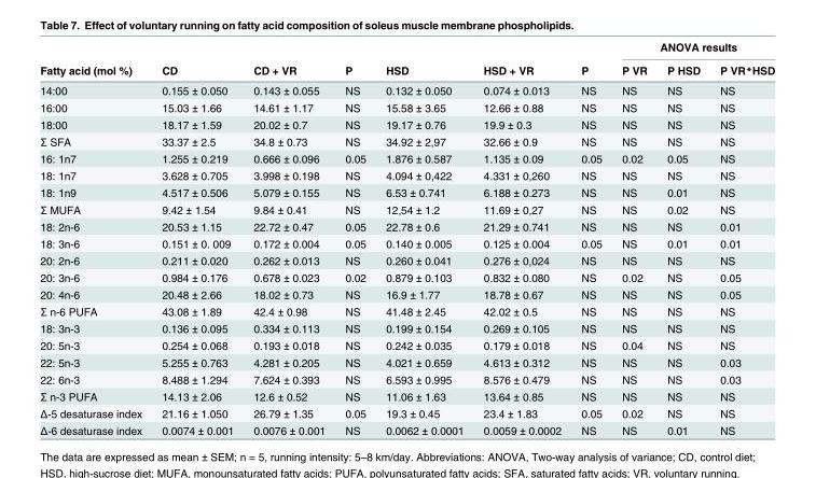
<table><thead><tr><td rowspan="2">Fatty acid (mol %)</td><td rowspan="2">CD</td><td rowspan="2">CD + VR</td><td rowspan="2">P</td><td rowspan="2">HSD</td><td rowspan="2">HSD + VR</td><td rowspan="2">P</td><td colspan="3">ANOVA results</td></tr><tr><td>P VR</td><td>P HSD</td><td>P VR*HSD</td></tr></thead><tbody><tr><td>14:00</td><td>0.155 ± 0.050</td><td>0.143 ± 0.055</td><td>NS</td><td>0.132 ± 0.050</td><td>0.074 ± 0.013</td><td>NS</td><td>NS</td><td>NS</td><td>NS</td></tr><tr><td>16:00</td><td>15.03 ± 1.66</td><td>14.61 ± 1.17</td><td>NS</td><td>15.58 ± 3.65</td><td>12.66 ± 0.88</td><td>NS</td><td>NS</td><td>NS</td><td>NS</td></tr><tr><td>18:00</td><td>18.17 ± 1.59</td><td>20.02 ± 0.7</td><td>NS</td><td>19.17 ± 0.76</td><td>19.9 ± 0.3</td><td>NS</td><td>NS</td><td>NS</td><td>NS</td></tr><tr><td>Σ SFA</td><td>33.37 ± 2.5</td><td>34.8 ± 0.73</td><td>NS</td><td>34.92 ± 2,97</td><td>32.66 ± 0.9</td><td>NS</td><td>NS</td><td>NS</td><td>NS</td></tr><tr><td>16: 1n7</td><td>1.255 ± 0.219</td><td>0.666 ± 0.096</td><td>0.05</td><td>1.876 ± 0.587</td><td>1.135 ± 0.09</td><td>0.05</td><td>0.02</td><td>0.05</td><td>NS</td></tr><tr><td>18: 1n7</td><td>3.628 ± 0.705</td><td>3.998 ± 0.198</td><td>NS</td><td>4.094 ± 0,422</td><td>4.331 ± 0,260</td><td>NS</td><td>NS</td><td>NS</td><td>NS</td></tr><tr><td>18: 1n9</td><td>4.517 ± 0.506</td><td>5.079 ± 0.155</td><td>NS</td><td>6.53 ± 0.741</td><td>6.188 ± 0.273</td><td>NS</td><td>NS</td><td>0.01</td><td>NS</td></tr><tr><td>Σ MUFA</td><td>9.42 ± 1.54</td><td>9.84 ± 0.41</td><td>NS</td><td>12,54 ± 1.2</td><td>11.69 ± 0,27</td><td>NS</td><td>NS</td><td>0.02</td><td>NS</td></tr><tr><td>18: 2n-6</td><td>20.53 ± 1.15</td><td>22.72 ± 0.47</td><td>0.05</td><td>22.78 ± 0.6</td><td>21.29 ± 0.741</td><td>NS</td><td>NS</td><td>NS</td><td>0.01</td></tr><tr><td>18: 3n-6</td><td>0.151 ± 0. 009</td><td>0.172 ± 0.004</td><td>0.05</td><td>0.140 ± 0.005</td><td>0.125 ± 0.004</td><td>0.05</td><td>NS</td><td>0.01</td><td>0.01</td></tr><tr><td>20: 2n-6</td><td>0.211 ± 0.020</td><td>0.262 ± 0.013</td><td>NS</td><td>0.260 ± 0.041</td><td>0.276 ± 0,024</td><td>NS</td><td>NS</td><td>NS</td><td>NS</td></tr><tr><td>20: 3n-6</td><td>0.984 ± 0.176</td><td>0.678 ± 0.023</td><td>0.02</td><td>0.879 ± 0.103</td><td>0.832 ± 0.080</td><td>NS</td><td>0.02</td><td>NS</td><td>0.05</td></tr><tr><td>20: 4n-6</td><td>20.48 ± 2.66</td><td>18.02 ± 0.73</td><td>NS</td><td>16.9 ± 1.77</td><td>18.78 ± 0.67</td><td>NS</td><td>NS</td><td>NS</td><td>0.05</td></tr><tr><td>Σ n-6 PUFA</td><td>43.08 ± 1.89</td><td>42.4 ± 0.98</td><td>NS</td><td>41.48 ± 2.45</td><td>42.02 ± 0.5</td><td>NS</td><td>NS</td><td>NS</td><td>NS</td></tr><tr><td>18: 3n-3</td><td>0.136 ± 0.095</td><td>0.334 ± 0.113</td><td>NS</td><td>0.199 ± 0.154</td><td>0.269 ± 0.105</td><td>NS</td><td>NS</td><td>NS</td><td>NS</td></tr><tr><td>20: 5n-3</td><td>0.254 ± 0.068</td><td>0.193 ± 0.018</td><td>NS</td><td>0.242 ± 0.035</td><td>0.179 ± 0.018</td><td>NS</td><td>0.04</td><td>NS</td><td>NS</td></tr><tr><td>22: 5n-3</td><td>5.255 ± 0.763</td><td>4.281 ± 0.205</td><td>NS</td><td>4.021 ± 0.659</td><td>4.613 ± 0.312</td><td>NS</td><td>NS</td><td>NS</td><td>0.03</td></tr><tr><td>22: 6n-3</td><td>8.488 ± 1.294</td><td>7.624 ± 0.393</td><td>NS</td><td>6.593 ± 0.995</td><td>8.576 ± 0.479</td><td>NS</td><td>NS</td><td>NS</td><td>0.03</td></tr><tr><td>Σ n-3 PUFA</td><td>14.13 ± 2.06</td><td>12.6 ± 0.52</td><td>NS</td><td>11.06 ± 1.63</td><td>13.64 ± 0.85</td><td>NS</td><td>NS</td><td>NS</td><td>NS</td></tr><tr><td>Δ-5 desaturase index</td><td>21.16 ± 1.050</td><td>26.79 ± 1.35</td><td>0.05</td><td>19.3 ± 0.45</td><td>23.4 ± 1.83</td><td>0.05</td><td>0.02</td><td>NS</td><td>NS</td></tr><tr><td>Δ-6 desaturase index</td><td>0.0074 ± 0.001</td><td>0.0076 ± 0.001</td><td>NS</td><td>0.0062 ± 0.0001</td><td>0.0059 ± 0.0002</td><td>NS</td><td>NS</td><td>0.01</td><td>NS</td></tr></tbody></table>